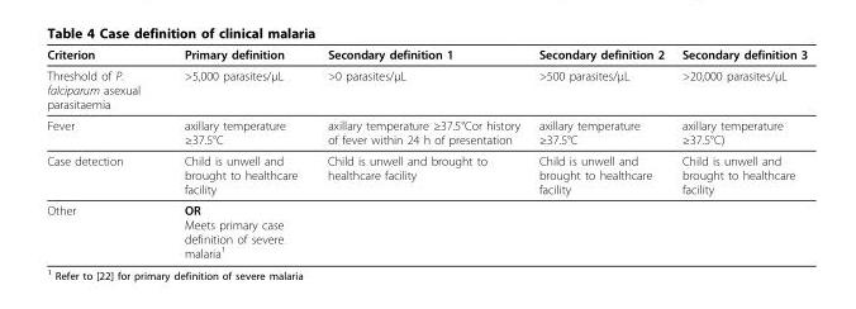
<table><thead><tr><td>Criterion</td><td>Primary definition</td><td>Secondary definition 1</td><td>Secondary definition 2</td><td>Secondary definition 3</td></tr></thead><tbody><tr><td>Threshold of P. falciparum asexual parasitaemia</td><td>&gt;5,000 parasites/μL</td><td>&gt;0 parasites/μL</td><td>&gt;500 parasites/μL</td><td>&gt;20,000 parasites/μL</td></tr><tr><td>Fever</td><td>axillary temperature ≥37.5°C</td><td>axillary temperature ≥37.5°Cor history of fever within 24 h of presentation</td><td>axillary temperature ≥37.5°C</td><td>axillary temperature ≥37.5°C)</td></tr><tr><td>Case detection</td><td>Child is unwell and brought to healthcare facility</td><td>Child is unwell and brought to healthcare facility</td><td>Child is unwell and brought to healthcare facility</td><td>Child is unwell and brought to healthcare facility</td></tr><tr><td>Other</td><td>OR Meets primary case definition of severe malaria<sup>1</sup></td><td></td><td></td><td></td></tr></tbody></table>